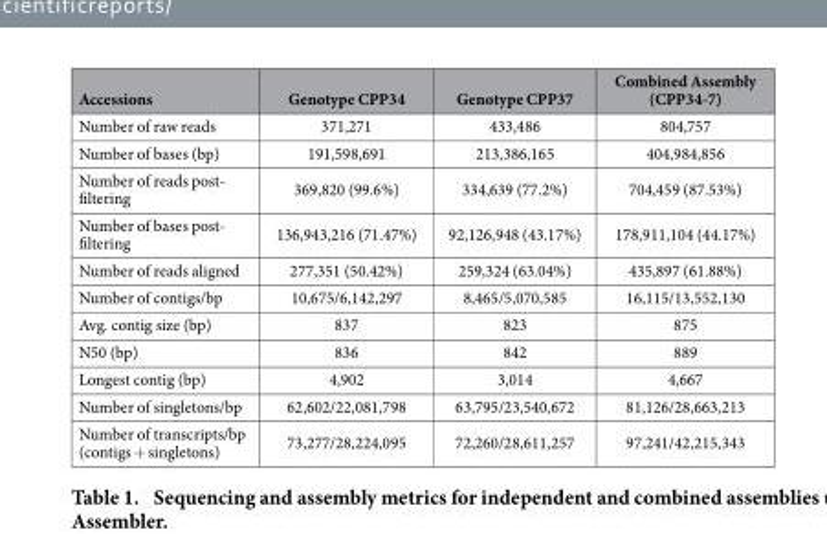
<table><thead><tr><td>Accessions</td><td>Genotype CPP34</td><td>Genotype CPP37</td><td>Combined Assembly (CPP34-7)</td></tr></thead><tbody><tr><td>Number of raw reads</td><td>371,271</td><td>433,486</td><td>804,757</td></tr><tr><td>Number of bases (bp)</td><td>191,598,691</td><td>213,386,165</td><td>404,984,856</td></tr><tr><td>Number of reads post- filtering</td><td>369,820 (99.6%)</td><td>334,639 (77.2%)</td><td>704,459 (87.53%)</td></tr><tr><td>Number of bases post- filtering</td><td>136,943,216 (71.47%)</td><td>92,126,948 (43.17%)</td><td>178,911,104 (44.17%)</td></tr><tr><td>Number of reads aligned</td><td>277,351 (50.42%)</td><td>259,324 (63.04%)</td><td>435,897 (61.88%)</td></tr><tr><td>Number of contigs/bp</td><td>10,675/6,142,297</td><td>8,465/5,070,585</td><td>16,115/13,552,130</td></tr><tr><td>Avg. contig size (bp)</td><td>837</td><td>823</td><td>875</td></tr><tr><td>N50 (bp)</td><td>836</td><td>842</td><td>889</td></tr><tr><td>Longest contig (bp)</td><td>4,902</td><td>3,014</td><td>4,667</td></tr><tr><td>Number of singletons/bp</td><td>62,602/22,081,798</td><td>63,795/23,540,672</td><td>81,126/28,663,213</td></tr><tr><td>Number of transcripts/bp (contigs + singletons)</td><td>73,277/28,224,095</td><td>72,260/28,611,257</td><td>97,241/42,215,343</td></tr></tbody></table>